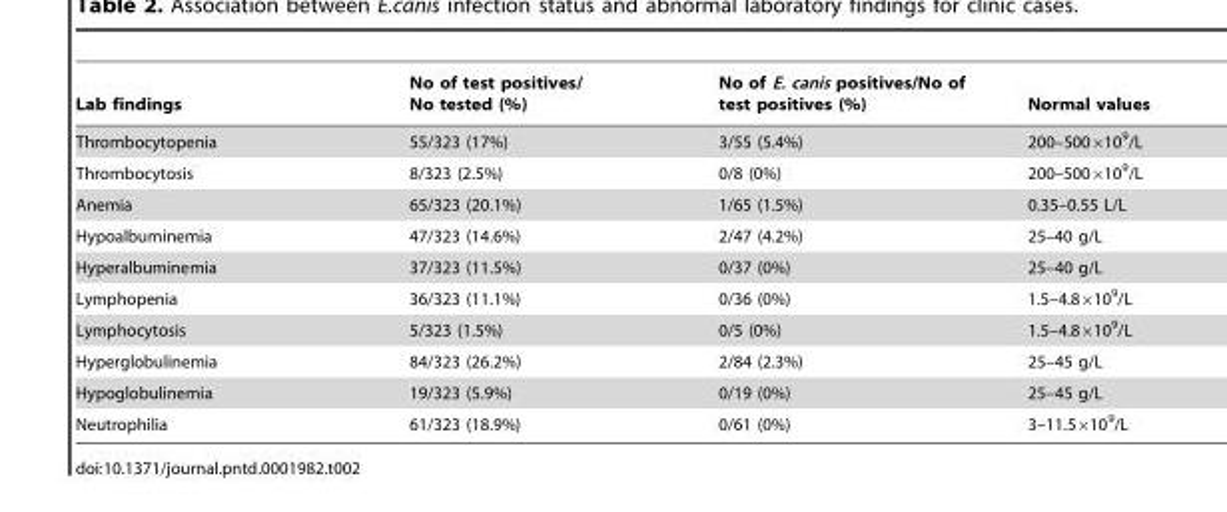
<table><thead><tr><td>Lab findings</td><td>No of test positives/ No tested (%)</td><td>No of E. canis positives/No of test positives (%)</td><td>Normal values</td></tr></thead><tbody><tr><td>Thrombocytopenia</td><td>55/323 (17%)</td><td>3/55 (5.4%)</td><td>200–500×10<sup>9</sup>/L</td></tr><tr><td>Thrombocytosis</td><td>8/323 (2.5%)</td><td>0/8 (0%)</td><td>200–500×10<sup>9</sup>/L</td></tr><tr><td>Anemia</td><td>65/323 (20.1%)</td><td>1/65 (1.5%)</td><td>0.35–0.55 L/L</td></tr><tr><td>Hypoalbuminemia</td><td>47/323 (14.6%)</td><td>2/47 (4.2%)</td><td>25–40 g/L</td></tr><tr><td>Hyperalbuminemia</td><td>37/323 (11.5%)</td><td>0/37 (0%)</td><td>25–40 g/L</td></tr><tr><td>Lymphopenia</td><td>36/323 (11.1%)</td><td>0/36 (0%)</td><td>1.5–4.8×10<sup>9</sup>/L</td></tr><tr><td>Lymphocytosis</td><td>5/323 (1.5%)</td><td>0/5 (0%)</td><td>1.5–4.8×10<sup>9</sup>/L</td></tr><tr><td>Hyperglobulinemia</td><td>84/323 (26.2%)</td><td>2/84 (2.3%)</td><td>25–45 g/L</td></tr><tr><td>Hypoglobulinemia</td><td>19/323 (5.9%)</td><td>0/19 (0%)</td><td>25–45 g/L</td></tr><tr><td>Neutrophilia</td><td>61/323 (18.9%)</td><td>0/61 (0%)</td><td>3–11.5×10<sup>9</sup>/L</td></tr></tbody></table>